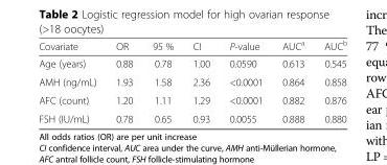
<table><thead><tr><td>Covariate</td><td>OR</td><td>95 %</td><td>CI</td><td>P-value</td><td>AUC<sup>a</sup></td><td>AUC<sup>b</sup></td></tr></thead><tbody><tr><td>Age (years)</td><td>0.88</td><td>0.78</td><td>1.00</td><td>0.0590</td><td>0.613</td><td>0.545</td></tr><tr><td>AMH (ng/mL)</td><td>1.93</td><td>1.58</td><td>2.36</td><td>&lt;0.0001</td><td>0.864</td><td>0.858</td></tr><tr><td>AFC (count)</td><td>1.20</td><td>1.11</td><td>1.29</td><td>&lt;0.0001</td><td>0.882</td><td>0.876</td></tr><tr><td>FSH (IU/mL)</td><td>0.78</td><td>0.65</td><td>0.93</td><td>0.0055</td><td>0.888</td><td>0.880</td></tr></tbody></table>